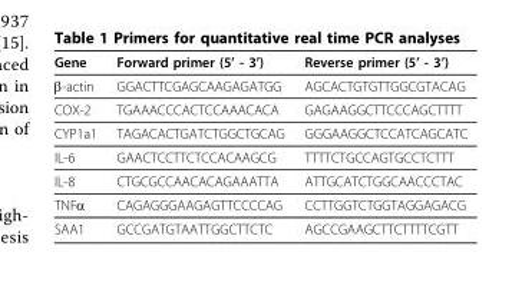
<table><thead><tr><td>Gene</td><td>Forward primer (5’ - 3’)</td><td>Reverse primer (5’ - 3’)</td></tr></thead><tbody><tr><td>β-actin</td><td>GGACTTCGAGCAAGAGATGG</td><td>AGCACTGTGTTGGCGTACAG</td></tr><tr><td>COX-2</td><td>TGAAACCCACTCCAAACACA</td><td>GAGAAGGCTTCCCAGCTTTT</td></tr><tr><td>CYP1a1</td><td>TAGACACTGATCTGGCTGCAG</td><td>GGGAAGGCTCCATCAGCATC</td></tr><tr><td>IL-6</td><td>GAACTCCTTCTCCACAAGCG</td><td>TTTTCTGCCAGTGCCTCTTT</td></tr><tr><td>IL-8</td><td>CTGCGCCAACACAGAAATTA</td><td>ATTGCATCTGGCAACCCTAC</td></tr><tr><td>TNFα</td><td>CAGAGGGAAGAGTTCCCCAG</td><td>CCTTGGTCTGGTAGGAGACG</td></tr><tr><td>SAA1</td><td>GCCGATGTAATTGGCTTCTC</td><td>AGCCGAAGCTTCTTTTCGTT</td></tr></tbody></table>